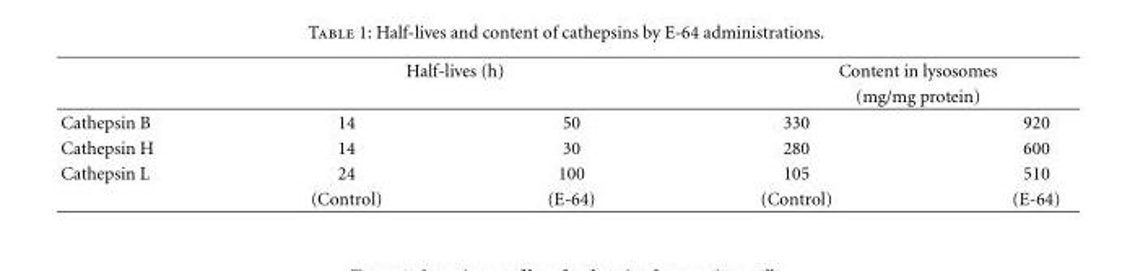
<table><thead><tr><td rowspan="3">Cathepsin B</td><td colspan="2">Half-lives (h)</td><td rowspan="2" colspan="2">Content in lysosomes (mg/mg protein)</td></tr><tr><td rowspan="2">14</td><td rowspan="2">50</td></tr><tr><td>330</td><td>920</td></tr></thead><tbody><tr><td>Cathepsin H</td><td>14</td><td>30</td><td>280</td><td>600</td></tr><tr><td rowspan="2">Cathepsin L</td><td>24</td><td>100</td><td>105</td><td>510</td></tr><tr><td>(Control)</td><td>(E-64)</td><td>(Control)</td><td>(E-64)</td></tr></tbody></table>